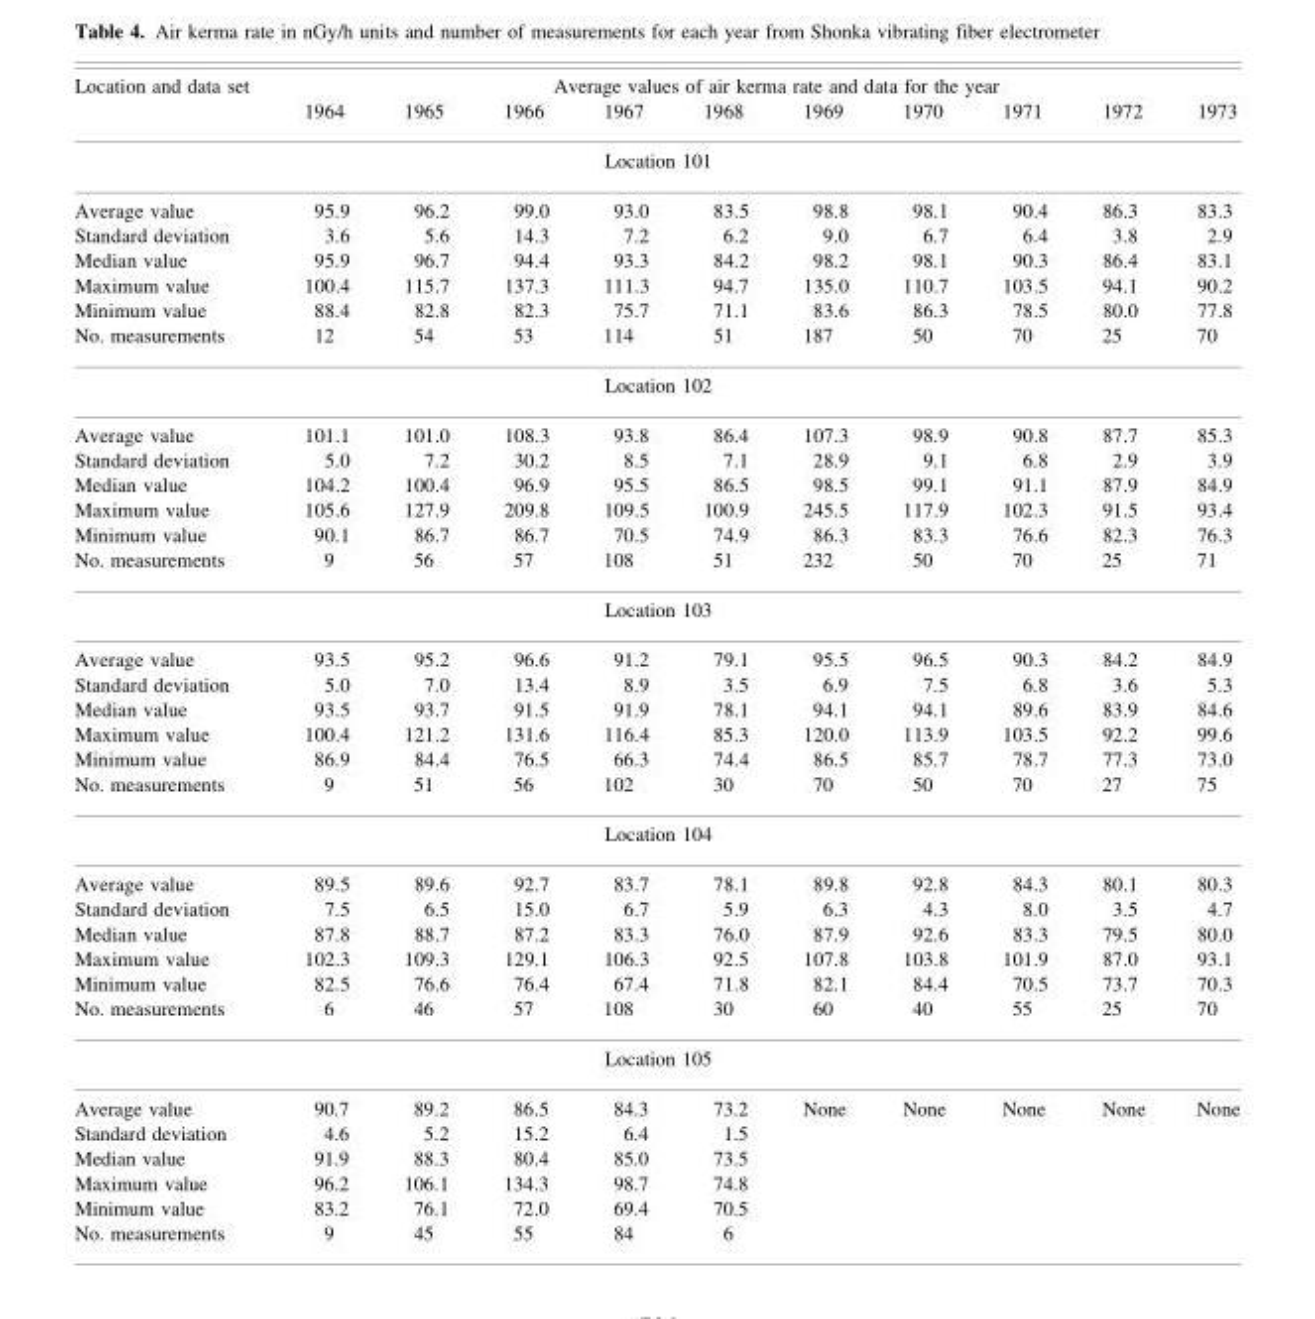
<table><thead><tr><td rowspan="2">Location and data set</td><td colspan="10">Average values of air kerma rate and data for the year</td></tr><tr><td>1964</td><td>1965</td><td>1966</td><td>1967</td><td>1968</td><td>1969</td><td>1970</td><td>1971</td><td>1972</td><td>1973</td></tr></thead><tbody><tr><td colspan="11">Location 101</td></tr><tr><td>Average value</td><td>95.9</td><td>96.2</td><td>99.0</td><td>93.0</td><td>83.5</td><td>98.8</td><td>98.1</td><td>90.4</td><td>86.3</td><td>83.3</td></tr><tr><td>Standard deviation</td><td>3.6</td><td>5.6</td><td>14.3</td><td>7.2</td><td>6.2</td><td>9.0</td><td>6.7</td><td>6.4</td><td>3.8</td><td>2.9</td></tr><tr><td>Median value</td><td>95.9</td><td>96.7</td><td>94.4</td><td>93.3</td><td>84.2</td><td>98.2</td><td>98.1</td><td>90.3</td><td>86.4</td><td>83.1</td></tr><tr><td>Maximum value</td><td>100.4</td><td>115.7</td><td>137.3</td><td>111.3</td><td>94.7</td><td>135.0</td><td>110.7</td><td>103.5</td><td>94.1</td><td>90.2</td></tr><tr><td>Minimum value</td><td>88.4</td><td>82.8</td><td>82.3</td><td>75.7</td><td>71.1</td><td>83.6</td><td>86.3</td><td>78.5</td><td>80.0</td><td>77.8</td></tr><tr><td>No. measurements</td><td>12</td><td>54</td><td>53</td><td>114</td><td>51</td><td>187</td><td>50</td><td>70</td><td>25</td><td>70</td></tr><tr><td colspan="11">Location 102</td></tr><tr><td>Average value</td><td>101.1</td><td>101.0</td><td>108.3</td><td>93.8</td><td>86.4</td><td>107.3</td><td>98.9</td><td>90.8</td><td>87.7</td><td>85.3</td></tr><tr><td>Standard deviation</td><td>5.0</td><td>7.2</td><td>30.2</td><td>8.5</td><td>7.1</td><td>28.9</td><td>9.1</td><td>6.8</td><td>2.9</td><td>3.9</td></tr><tr><td>Median value</td><td>104.2</td><td>100.4</td><td>96.9</td><td>95.5</td><td>86.5</td><td>98.5</td><td>99.1</td><td>91.1</td><td>87.9</td><td>84.9</td></tr><tr><td>Maximum value</td><td>105.6</td><td>127.9</td><td>209.8</td><td>109.5</td><td>100.9</td><td>245.5</td><td>117.9</td><td>102.3</td><td>91.5</td><td>93.4</td></tr><tr><td>Minimum value</td><td>90.1</td><td>86.7</td><td>86.7</td><td>70.5</td><td>74.9</td><td>86.3</td><td>83.3</td><td>76.6</td><td>82.3</td><td>76.3</td></tr><tr><td>No. measurements</td><td>9</td><td>56</td><td>57</td><td>108</td><td>51</td><td>232</td><td>50</td><td>70</td><td>25</td><td>71</td></tr><tr><td colspan="11">Location 103</td></tr><tr><td>Average value</td><td>93.5</td><td>95.2</td><td>96.6</td><td>91.2</td><td>79.1</td><td>95.5</td><td>96.5</td><td>90.3</td><td>84.2</td><td>84.9</td></tr><tr><td>Standard deviation</td><td>5.0</td><td>7.0</td><td>13.4</td><td>8.9</td><td>3.5</td><td>6.9</td><td>7.5</td><td>6.8</td><td>3.6</td><td>5.3</td></tr><tr><td>Median value</td><td>93.5</td><td>93.7</td><td>91.5</td><td>91.9</td><td>78.1</td><td>94.1</td><td>94.1</td><td>89.6</td><td>83.9</td><td>84.6</td></tr><tr><td>Maximum value</td><td>100.4</td><td>121.2</td><td>131.6</td><td>116.4</td><td>85.3</td><td>120.0</td><td>113.9</td><td>103.5</td><td>92.2</td><td>99.6</td></tr><tr><td>Minimum value</td><td>86.9</td><td>84.4</td><td>76.5</td><td>66.3</td><td>74.4</td><td>86.5</td><td>85.7</td><td>78.7</td><td>77.3</td><td>73.0</td></tr><tr><td>No. measurements</td><td>9</td><td>51</td><td>56</td><td>102</td><td>30</td><td>70</td><td>50</td><td>70</td><td>27</td><td>75</td></tr><tr><td colspan="11">Location 104</td></tr><tr><td>Average value</td><td>89.5</td><td>89.6</td><td>92.7</td><td>83.7</td><td>78.1</td><td>89.8</td><td>92.8</td><td>84.3</td><td>80.1</td><td>80.3</td></tr><tr><td>Standard deviation</td><td>7.5</td><td>6.5</td><td>15.0</td><td>6.7</td><td>5.9</td><td>6.3</td><td>4.3</td><td>8.0</td><td>3.5</td><td>4.7</td></tr><tr><td>Median value</td><td>87.8</td><td>88.7</td><td>87.2</td><td>83.3</td><td>76.0</td><td>87.9</td><td>92.6</td><td>83.3</td><td>79.5</td><td>80.0</td></tr><tr><td>Maximum value</td><td>102.3</td><td>109.3</td><td>129.1</td><td>106.3</td><td>92.5</td><td>107.8</td><td>103.8</td><td>101.9</td><td>87.0</td><td>93.1</td></tr><tr><td>Minimum value</td><td>82.5</td><td>76.6</td><td>76.4</td><td>67.4</td><td>71.8</td><td>82.1</td><td>84.4</td><td>70.5</td><td>73.7</td><td>70.3</td></tr><tr><td>No. measurements</td><td>6</td><td>46</td><td>57</td><td>108</td><td>30</td><td>60</td><td>40</td><td>55</td><td>25</td><td>70</td></tr><tr><td colspan="11">Location 105</td></tr><tr><td>Average value</td><td>90.7</td><td>89.2</td><td>86.5</td><td>84.3</td><td>73.2</td><td>None</td><td>None</td><td>None</td><td>None</td><td>None</td></tr><tr><td>Standard deviation</td><td>4.6</td><td>5.2</td><td>15.2</td><td>6.4</td><td>1.5</td><td></td><td></td><td></td><td></td><td></td></tr><tr><td>Median value</td><td>91.9</td><td>88.3</td><td>80.4</td><td>85.0</td><td>73.5</td><td></td><td></td><td></td><td></td><td></td></tr><tr><td>Maximum value</td><td>96.2</td><td>106.1</td><td>134.3</td><td>98.7</td><td>74.8</td><td></td><td></td><td></td><td></td><td></td></tr><tr><td>Minimum value</td><td>83.2</td><td>76.1</td><td>72.0</td><td>69.4</td><td>70.5</td><td></td><td></td><td></td><td></td><td></td></tr><tr><td>No. measurements</td><td>9</td><td>45</td><td>55</td><td>84</td><td>6</td><td></td><td></td><td></td><td></td><td></td></tr></tbody></table>